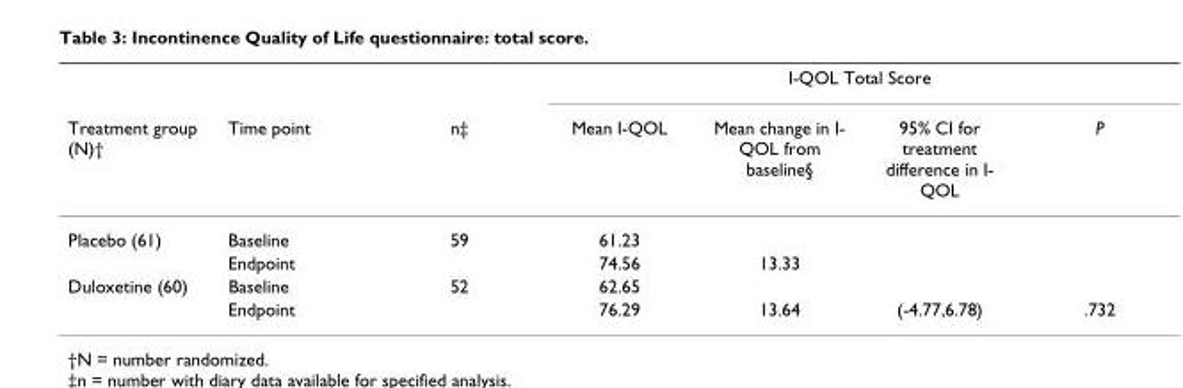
<table><thead><tr><td rowspan="2">Treatment group (N)†</td><td rowspan="2">Time point</td><td rowspan="2">n‡</td><td colspan="4">I-QOL Total Score</td></tr><tr><td>Mean I-QOL</td><td>Mean change in I- QOL from baseline§</td><td>95% CI for treatment difference in I- QOL</td><td>P</td></tr></thead><tbody><tr><td rowspan="2">Placebo (61)</td><td>Baseline</td><td>59</td><td>61.23</td><td></td><td></td><td></td></tr><tr><td>Endpoint</td><td></td><td>74.56</td><td>13.33</td><td></td><td></td></tr><tr><td rowspan="2">Duloxetine (60)</td><td>Baseline</td><td>52</td><td>62.65</td><td></td><td></td><td></td></tr><tr><td>Endpoint</td><td></td><td>76.29</td><td>13.64</td><td>(-4.77,6.78)</td><td>.732</td></tr></tbody></table>